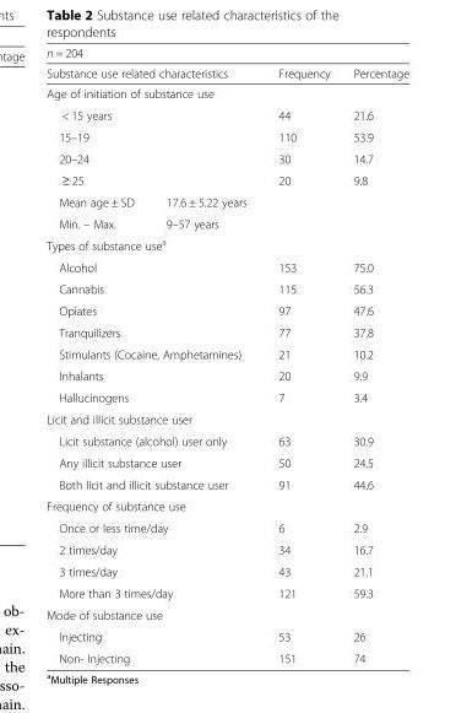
<table><thead><tr><td colspan="4">n = 204</td></tr><tr><td colspan="2">Substance use related characteristics</td><td>Frequency</td><td>Percentage</td></tr></thead><tbody><tr><td colspan="4">Age of initiation of substance use</td></tr><tr><td colspan="2">&lt; 15 years</td><td>44</td><td>21.6</td></tr><tr><td colspan="2">15–19</td><td>110</td><td>53.9</td></tr><tr><td colspan="2">20–24</td><td>30</td><td>14.7</td></tr><tr><td colspan="2">≥ 25</td><td>20</td><td>9.8</td></tr><tr><td>Mean age ± SD</td><td>17.6 ± 5.22 years</td><td></td><td></td></tr><tr><td>Min. – Max.</td><td>9–57 years</td><td></td><td></td></tr><tr><td colspan="4">Types of substance use<sup>a</sup></td></tr><tr><td colspan="2">Alcohol</td><td>153</td><td>75.0</td></tr><tr><td colspan="2">Cannabis</td><td>115</td><td>56.3</td></tr><tr><td colspan="2">Opiates</td><td>97</td><td>47.6</td></tr><tr><td colspan="2">Tranquilizers</td><td>77</td><td>37.8</td></tr><tr><td colspan="2">Stimulants (Cocaine, Amphetamines)</td><td>21</td><td>10.2</td></tr><tr><td colspan="2">Inhalants</td><td>20</td><td>9.9</td></tr><tr><td colspan="2">Hallucinogens</td><td>7</td><td>3.4</td></tr><tr><td colspan="4">Licit and illicit substance user</td></tr><tr><td colspan="2">Licit substance (alcohol) user only</td><td>63</td><td>30.9</td></tr><tr><td colspan="2">Any illicit substance user</td><td>50</td><td>24.5</td></tr><tr><td colspan="2">Both licit and illicit substance user</td><td>91</td><td>44.6</td></tr><tr><td colspan="4">Frequency of substance use</td></tr><tr><td colspan="2">Once or less time/day</td><td>6</td><td>2.9</td></tr><tr><td colspan="2">2 times/day</td><td>34</td><td>16.7</td></tr><tr><td colspan="2">3 times/day</td><td>43</td><td>21.1</td></tr><tr><td colspan="2">More than 3 times/day</td><td>121</td><td>59.3</td></tr><tr><td colspan="4">Mode of substance use</td></tr><tr><td colspan="2">Injecting</td><td>53</td><td>26</td></tr><tr><td colspan="2">Non- Injecting</td><td>151</td><td>74</td></tr></tbody></table>